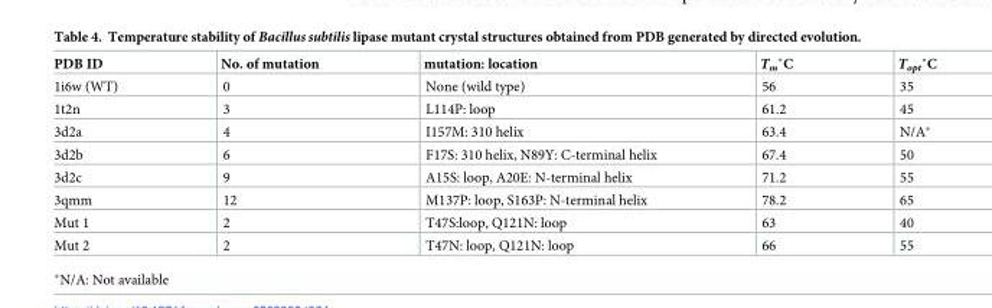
<table><thead><tr><td>PDB ID</td><td>No. of mutation</td><td>mutation: location</td><td>Tm˚C</td><td>Topt˚C</td></tr></thead><tbody><tr><td>1i6w (WT)</td><td>0</td><td>None (wild type)</td><td>56</td><td>35</td></tr><tr><td>1t2n</td><td>3</td><td>L114P: loop</td><td>61.2</td><td>45</td></tr><tr><td>3d2a</td><td>4</td><td>I157M: 310 helix</td><td>63.4</td><td>N/A*</td></tr><tr><td>3d2b</td><td>6</td><td>F17S: 310 helix, N89Y: C-terminal helix</td><td>67.4</td><td>50</td></tr><tr><td>3d2c</td><td>9</td><td>A15S: loop, A20E: N-terminal helix</td><td>71.2</td><td>55</td></tr><tr><td>3qmm</td><td>12</td><td>M137P: loop, S163P: N-terminal helix</td><td>78.2</td><td>65</td></tr><tr><td>Mut 1</td><td>2</td><td>T47S:loop, Q121N: loop</td><td>63</td><td>40</td></tr><tr><td>Mut 2</td><td>2</td><td>T47N: loop, Q121N: loop</td><td>66</td><td>55</td></tr></tbody></table>